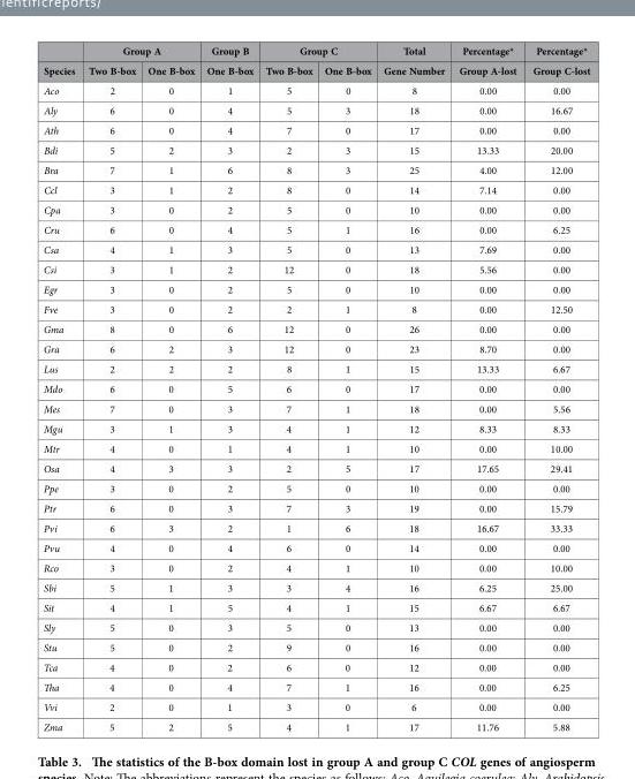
<table><thead><tr><td rowspan="2">Species</td><td colspan="2">Group A</td><td rowspan="2">Group B One B-box</td><td colspan="2">Group C</td><td rowspan="2">Total Gene Number</td><td rowspan="2">Percentage* Group A-lost</td><td rowspan="2">Percentage* Group C-lost</td></tr><tr><td>Two B-box</td><td>One B-box</td><td>Two B-box</td><td>One B-box</td></tr></thead><tbody><tr><td>Aco</td><td>2</td><td>0</td><td>1</td><td>5</td><td>0</td><td>8</td><td>0.00</td><td>0.00</td></tr><tr><td>Aly</td><td>6</td><td>0</td><td>4</td><td>5</td><td>3</td><td>18</td><td>0.00</td><td>16.67</td></tr><tr><td>Ath</td><td>6</td><td>0</td><td>4</td><td>7</td><td>0</td><td>17</td><td>0.00</td><td>0.00</td></tr><tr><td>Bdi</td><td>5</td><td>2</td><td>3</td><td>2</td><td>3</td><td>15</td><td>13.33</td><td>20.00</td></tr><tr><td>Bra</td><td>7</td><td>1</td><td>6</td><td>8</td><td>3</td><td>25</td><td>4.00</td><td>12.00</td></tr><tr><td>Ccl</td><td>3</td><td>1</td><td>2</td><td>8</td><td>0</td><td>14</td><td>7.14</td><td>0.00</td></tr><tr><td>Cpa</td><td>3</td><td>0</td><td>2</td><td>5</td><td>0</td><td>10</td><td>0.00</td><td>0.00</td></tr><tr><td>Cru</td><td>6</td><td>0</td><td>4</td><td>5</td><td>1</td><td>16</td><td>0.00</td><td>6.25</td></tr><tr><td>Csa</td><td>4</td><td>1</td><td>3</td><td>5</td><td>0</td><td>13</td><td>7.69</td><td>0.00</td></tr><tr><td>Csi</td><td>3</td><td>1</td><td>2</td><td>12</td><td>0</td><td>18</td><td>5.56</td><td>0.00</td></tr><tr><td>Egr</td><td>3</td><td>0</td><td>2</td><td>5</td><td>0</td><td>10</td><td>0.00</td><td>0.00</td></tr><tr><td>Fve</td><td>3</td><td>0</td><td>2</td><td>2</td><td>1</td><td>8</td><td>0.00</td><td>12.50</td></tr><tr><td>Gma</td><td>8</td><td>0</td><td>6</td><td>12</td><td>0</td><td>26</td><td>0.00</td><td>0.00</td></tr><tr><td>Gra</td><td>6</td><td>2</td><td>3</td><td>12</td><td>0</td><td>23</td><td>8.70</td><td>0.00</td></tr><tr><td>Lus</td><td>2</td><td>2</td><td>2</td><td>8</td><td>1</td><td>15</td><td>13.33</td><td>6.67</td></tr><tr><td>Mdo</td><td>6</td><td>0</td><td>5</td><td>6</td><td>0</td><td>17</td><td>0.00</td><td>0.00</td></tr><tr><td>Mes</td><td>7</td><td>0</td><td>3</td><td>7</td><td>1</td><td>18</td><td>0.00</td><td>5.56</td></tr><tr><td>Mgu</td><td>3</td><td>1</td><td>3</td><td>4</td><td>1</td><td>12</td><td>8.33</td><td>8.33</td></tr><tr><td>Mtr</td><td>4</td><td>0</td><td>1</td><td>4</td><td>1</td><td>10</td><td>0.00</td><td>10.00</td></tr><tr><td>Osa</td><td>4</td><td>3</td><td>3</td><td>2</td><td>5</td><td>17</td><td>17.65</td><td>29.41</td></tr><tr><td>Ppe</td><td>3</td><td>0</td><td>2</td><td>5</td><td>0</td><td>10</td><td>0.00</td><td>0.00</td></tr><tr><td>Ptr</td><td>6</td><td>0</td><td>3</td><td>7</td><td>3</td><td>19</td><td>0.00</td><td>15.79</td></tr><tr><td>Pvi</td><td>6</td><td>3</td><td>2</td><td>1</td><td>6</td><td>18</td><td>16.67</td><td>33.33</td></tr><tr><td>Pvu</td><td>4</td><td>0</td><td>4</td><td>6</td><td>0</td><td>14</td><td>0.00</td><td>0.00</td></tr><tr><td>Rco</td><td>3</td><td>0</td><td>2</td><td>4</td><td>1</td><td>10</td><td>0.00</td><td>10.00</td></tr><tr><td>Sbi</td><td>5</td><td>1</td><td>3</td><td>3</td><td>4</td><td>16</td><td>6.25</td><td>25.00</td></tr><tr><td>Sit</td><td>4</td><td>1</td><td>5</td><td>4</td><td>1</td><td>15</td><td>6.67</td><td>6.67</td></tr><tr><td>Sly</td><td>5</td><td>0</td><td>3</td><td>5</td><td>0</td><td>13</td><td>0.00</td><td>0.00</td></tr><tr><td>Stu</td><td>5</td><td>0</td><td>2</td><td>9</td><td>0</td><td>16</td><td>0.00</td><td>0.00</td></tr><tr><td>Tca</td><td>4</td><td>0</td><td>2</td><td>6</td><td>0</td><td>12</td><td>0.00</td><td>0.00</td></tr><tr><td>Tha</td><td>4</td><td>0</td><td>4</td><td>7</td><td>1</td><td>16</td><td>0.00</td><td>6.25</td></tr><tr><td>Vvi</td><td>2</td><td>0</td><td>1</td><td>3</td><td>0</td><td>6</td><td>0.00</td><td>0.00</td></tr><tr><td>Zma</td><td>5</td><td>2</td><td>5</td><td>4</td><td>1</td><td>17</td><td>11.76</td><td>5.88</td></tr></tbody></table>